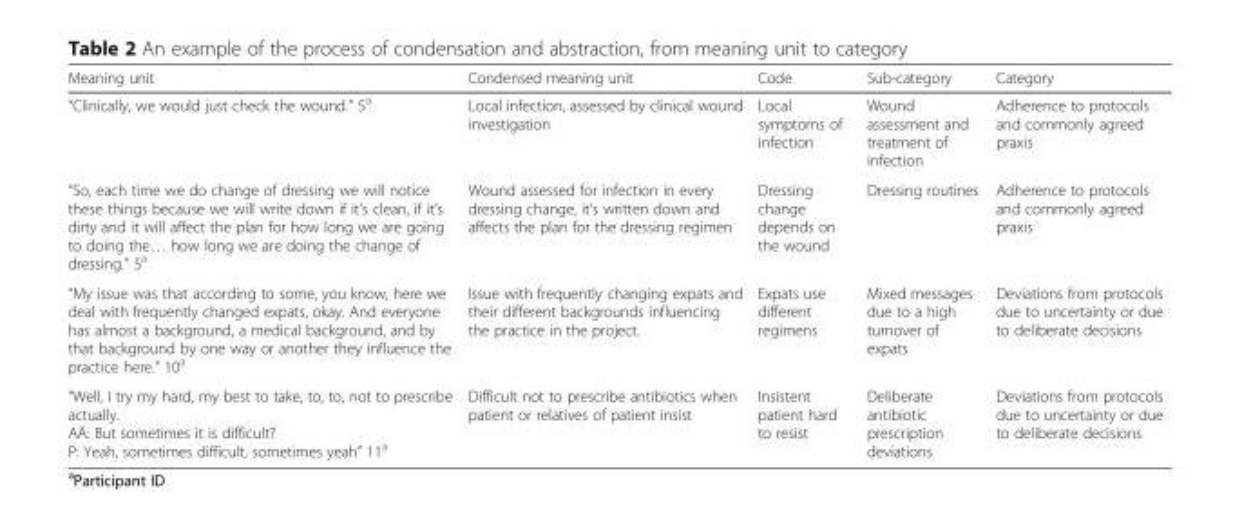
<table><thead><tr><td>Meaning unit</td><td>Condensed meaning unit</td><td>Code</td><td>Sub-category</td><td>Category</td></tr></thead><tbody><tr><td>“Clinically, we would just check the wound.” 5<sup>a</sup></td><td>Local infection, assessed by clinical wound investigation</td><td>Local symptoms of infection</td><td>Wound assessment and treatment of infection</td><td>Adherence to protocols and commonly agreed praxis</td></tr><tr><td>“So, each time we do change of dressing we will notice these things because we will write down if it’s clean, if it’s dirty and it will affect the plan for how long we are going to doing the… how long we are doing the change of dressing.” 5<sup>a</sup></td><td>Wound assessed for infection in every dressing change, it’s written down and affects the plan for the dressing regimen</td><td>Dressing change depends on the wound</td><td>Dressing routines</td><td>Adherence to protocols and commonly agreed praxis</td></tr><tr><td>“My issue was that according to some, you know, here we deal with frequently changed expats, okay. And everyone has almost a background, a medical background, and by that background by one way or another they influence the practice here.” 10<sup>a</sup></td><td>Issue with frequently changing expats and their different backgrounds influencing the practice in the project.</td><td>Expats use different regimens</td><td>Mixed messages due to a high turnover of expats</td><td>Deviations from protocols due to uncertainty or due to deliberate decisions</td></tr><tr><td>“Well, I try my hard, my best to take, to, to, not to prescribe actually. AÄ: But sometimes it is difficult? P: Yeah, sometimes difficult, sometimes yeah” 11<sup>a</sup></td><td>Difficult not to prescribe antibiotics when patient or relatives of patient insist</td><td>Insistent patient hard to resist</td><td>Deliberate antibiotic prescription deviations</td><td>Deviations from protocols due to uncertainty or due to deliberate decisions</td></tr></tbody></table>